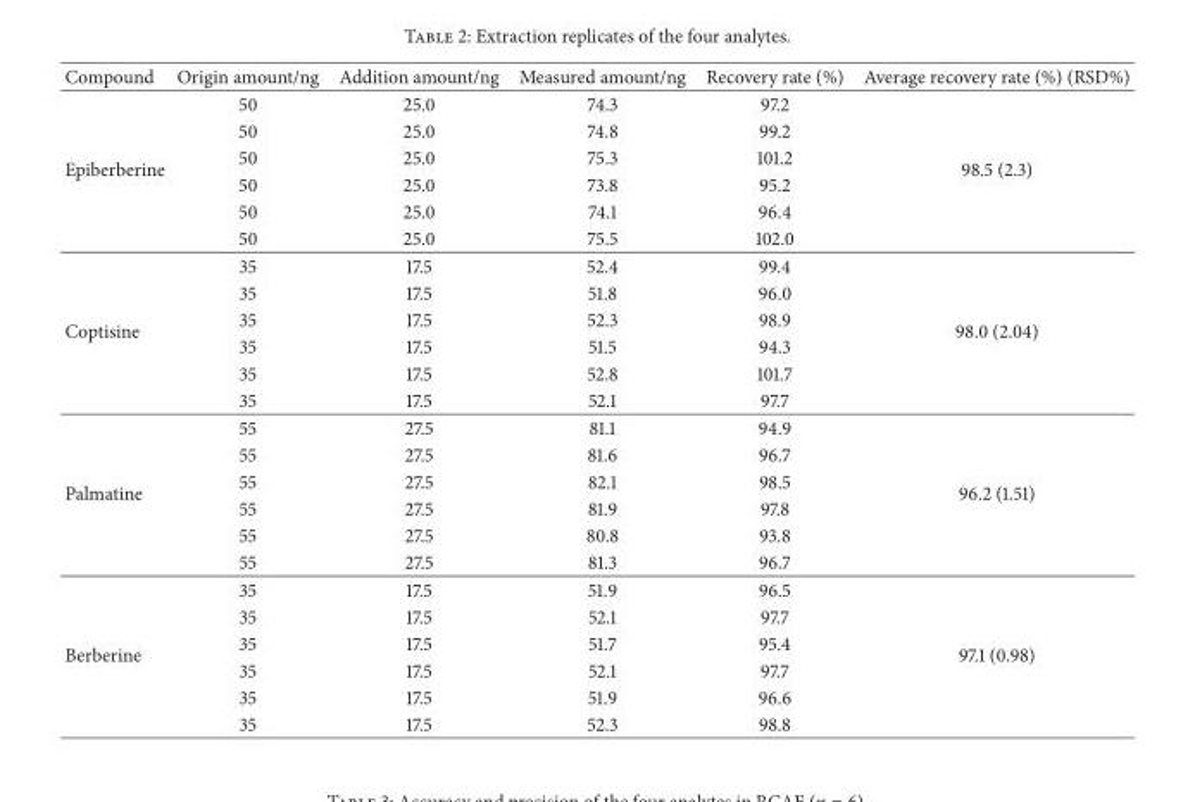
<table><thead><tr><td>Compound</td><td>Origin amount/ng</td><td>Addition amount/ng</td><td>Measured amount/ng</td><td>Recovery rate (%)</td><td>Average recovery rate (%) (RSD%)</td></tr></thead><tbody><tr><td rowspan="6">Epiberberine</td><td>50</td><td>25.0</td><td>74.3</td><td>97.2</td><td rowspan="6">98.5 (2.3)</td></tr><tr><td>50</td><td>25.0</td><td>74.8</td><td>99.2</td></tr><tr><td>50</td><td>25.0</td><td>75.3</td><td>101.2</td></tr><tr><td>50</td><td>25.0</td><td>73.8</td><td>95.2</td></tr><tr><td>50</td><td>25.0</td><td>74.1</td><td>96.4</td></tr><tr><td>50</td><td>25.0</td><td>75.5</td><td>102.0</td></tr><tr><td rowspan="6">Coptisine</td><td>35</td><td>17.5</td><td>52.4</td><td>99.4</td><td rowspan="6">98.0 (2.04)</td></tr><tr><td>35</td><td>17.5</td><td>51.8</td><td>96.0</td></tr><tr><td>35</td><td>17.5</td><td>52.3</td><td>98.9</td></tr><tr><td>35</td><td>17.5</td><td>51.5</td><td>94.3</td></tr><tr><td>35</td><td>17.5</td><td>52.8</td><td>101.7</td></tr><tr><td>35</td><td>17.5</td><td>52.1</td><td>97.7</td></tr><tr><td rowspan="6">Palmatine</td><td>55</td><td>27.5</td><td>81.1</td><td>94.9</td><td rowspan="6">96.2 (1.51)</td></tr><tr><td>55</td><td>27.5</td><td>81.6</td><td>96.7</td></tr><tr><td>55</td><td>27.5</td><td>82.1</td><td>98.5</td></tr><tr><td>55</td><td>27.5</td><td>81.9</td><td>97.8</td></tr><tr><td>55</td><td>27.5</td><td>80.8</td><td>93.8</td></tr><tr><td>55</td><td>27.5</td><td>81.3</td><td>96.7</td></tr><tr><td rowspan="6">Berberine</td><td>35</td><td>17.5</td><td>51.9</td><td>96.5</td><td rowspan="6">97.1 (0.98)</td></tr><tr><td>35</td><td>17.5</td><td>52.1</td><td>97.7</td></tr><tr><td>35</td><td>17.5</td><td>51.7</td><td>95.4</td></tr><tr><td>35</td><td>17.5</td><td>52.1</td><td>97.7</td></tr><tr><td>35</td><td>17.5</td><td>51.9</td><td>96.6</td></tr><tr><td>35</td><td>17.5</td><td>52.3</td><td>98.8</td></tr></tbody></table>